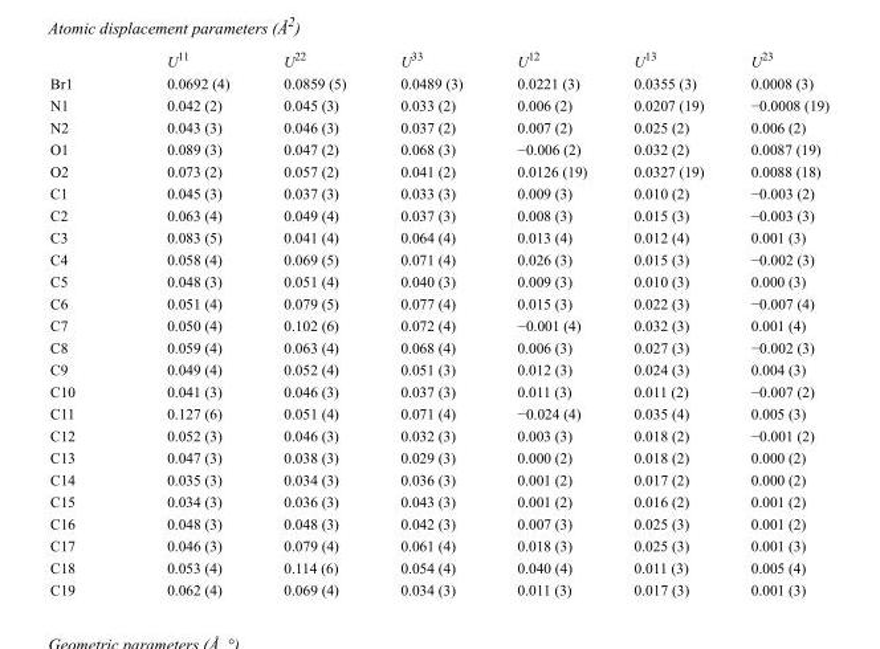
<table><thead><tr><td></td><td>U<sup>11</sup></td><td>U<sup>22</sup></td><td>U<sup>33</sup></td><td>U<sup>12</sup></td><td>U<sup>13</sup></td><td>U<sup>23</sup></td></tr></thead><tbody><tr><td>Br1</td><td>0.0692 (4)</td><td>0.0859 (5)</td><td>0.0489 (3)</td><td>0.0221 (3)</td><td>0.0355 (3)</td><td>0.0008 (3)</td></tr><tr><td>N1</td><td>0.042 (2)</td><td>0.045 (3)</td><td>0.033 (2)</td><td>0.006 (2)</td><td>0.0207 (19)</td><td>−0.0008 (19)</td></tr><tr><td>N2</td><td>0.043 (3)</td><td>0.046 (3)</td><td>0.037 (2)</td><td>0.007 (2)</td><td>0.025 (2)</td><td>0.006 (2)</td></tr><tr><td>O1</td><td>0.089 (3)</td><td>0.047 (2)</td><td>0.068 (3)</td><td>−0.006 (2)</td><td>0.032 (2)</td><td>0.0087 (19)</td></tr><tr><td>O2</td><td>0.073 (2)</td><td>0.057 (2)</td><td>0.041 (2)</td><td>0.0126 (19)</td><td>0.0327 (19)</td><td>0.0088 (18)</td></tr><tr><td>C1</td><td>0.045 (3)</td><td>0.037 (3)</td><td>0.033 (3)</td><td>0.009 (3)</td><td>0.010 (2)</td><td>−0.003 (2)</td></tr><tr><td>C2</td><td>0.063 (4)</td><td>0.049 (4)</td><td>0.037 (3)</td><td>0.008 (3)</td><td>0.015 (3)</td><td>−0.003 (3)</td></tr><tr><td>C3</td><td>0.083 (5)</td><td>0.041 (4)</td><td>0.064 (4)</td><td>0.013 (4)</td><td>0.012 (4)</td><td>0.001 (3)</td></tr><tr><td>C4</td><td>0.058 (4)</td><td>0.069 (5)</td><td>0.071 (4)</td><td>0.026 (3)</td><td>0.015 (3)</td><td>−0.002 (3)</td></tr><tr><td>C5</td><td>0.048 (3)</td><td>0.051 (4)</td><td>0.040 (3)</td><td>0.009 (3)</td><td>0.010 (3)</td><td>0.000 (3)</td></tr><tr><td>C6</td><td>0.051 (4)</td><td>0.079 (5)</td><td>0.077 (4)</td><td>0.015 (3)</td><td>0.022 (3)</td><td>−0.007 (4)</td></tr><tr><td>C7</td><td>0.050 (4)</td><td>0.102 (6)</td><td>0.072 (4)</td><td>−0.001 (4)</td><td>0.032 (3)</td><td>0.001 (4)</td></tr><tr><td>C8</td><td>0.059 (4)</td><td>0.063 (4)</td><td>0.068 (4)</td><td>0.006 (3)</td><td>0.027 (3)</td><td>−0.002 (3)</td></tr><tr><td>C9</td><td>0.049 (4)</td><td>0.052 (4)</td><td>0.051 (3)</td><td>0.012 (3)</td><td>0.024 (3)</td><td>0.004 (3)</td></tr><tr><td>C10</td><td>0.041 (3)</td><td>0.046 (3)</td><td>0.037 (3)</td><td>0.011 (3)</td><td>0.011 (2)</td><td>−0.007 (2)</td></tr><tr><td>C11</td><td>0.127 (6)</td><td>0.051 (4)</td><td>0.071 (4)</td><td>−0.024 (4)</td><td>0.035 (4)</td><td>0.005 (3)</td></tr><tr><td>C12</td><td>0.052 (3)</td><td>0.046 (3)</td><td>0.032 (3)</td><td>0.003 (3)</td><td>0.018 (2)</td><td>−0.001 (2)</td></tr><tr><td>C13</td><td>0.047 (3)</td><td>0.038 (3)</td><td>0.029 (3)</td><td>0.000 (2)</td><td>0.018 (2)</td><td>0.000 (2)</td></tr><tr><td>C14</td><td>0.035 (3)</td><td>0.034 (3)</td><td>0.036 (3)</td><td>0.001 (2)</td><td>0.017 (2)</td><td>0.000 (2)</td></tr><tr><td>C15</td><td>0.034 (3)</td><td>0.036 (3)</td><td>0.043 (3)</td><td>0.001 (2)</td><td>0.016 (2)</td><td>0.001 (2)</td></tr><tr><td>C16</td><td>0.048 (3)</td><td>0.048 (3)</td><td>0.042 (3)</td><td>0.007 (3)</td><td>0.025 (3)</td><td>0.001 (2)</td></tr><tr><td>C17</td><td>0.046 (3)</td><td>0.079 (4)</td><td>0.061 (4)</td><td>0.018 (3)</td><td>0.025 (3)</td><td>0.001 (3)</td></tr><tr><td>C18</td><td>0.053 (4)</td><td>0.114 (6)</td><td>0.054 (4)</td><td>0.040 (4)</td><td>0.011 (3)</td><td>0.005 (4)</td></tr><tr><td>C19</td><td>0.062 (4)</td><td>0.069 (4)</td><td>0.034 (3)</td><td>0.011 (3)</td><td>0.017 (3)</td><td>0.001 (3)</td></tr></tbody></table>